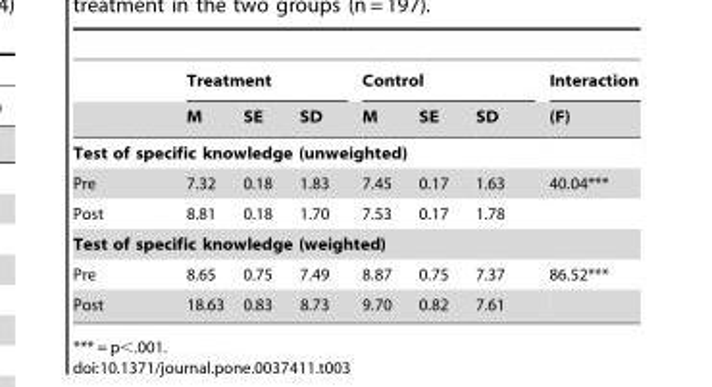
<table><thead><tr><td rowspan="2"></td><td colspan="3">Treatment</td><td colspan="3">Control</td><td rowspan="2">Interaction (F)</td></tr><tr><td>M</td><td>SE</td><td>SD</td><td>M</td><td>SE</td><td>SD</td></tr></thead><tbody><tr><td colspan="8">Test of specific knowledge (unweighted)</td></tr><tr><td>Pre</td><td>7.32</td><td>0.18</td><td>1.83</td><td>7.45</td><td>0.17</td><td>1.63</td><td>40.04***</td></tr><tr><td>Post</td><td>8.81</td><td>0.18</td><td>1.70</td><td>7.53</td><td>0.17</td><td>1.78</td><td></td></tr><tr><td colspan="8">Test of specific knowledge (weighted)</td></tr><tr><td>Pre</td><td>8.65</td><td>0.75</td><td>7.49</td><td>8.87</td><td>0.75</td><td>7.37</td><td>86.52***</td></tr><tr><td>Post</td><td>18.63</td><td>0.83</td><td>8.73</td><td>9.70</td><td>0.82</td><td>7.61</td><td></td></tr></tbody></table>